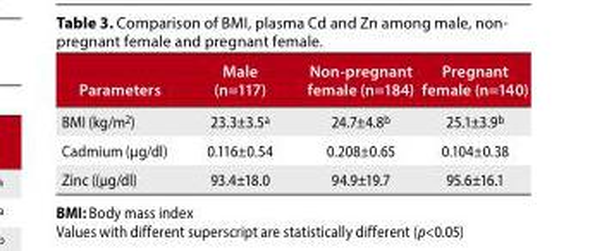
<table><thead><tr><td>Parameters</td><td>Male (n=117)</td><td>Non-pregnant female (n=184)</td><td>Pregnant female (n=140)</td></tr></thead><tbody><tr><td>BMI (kg/m<sup>2</sup>)</td><td>23.3±3.5<sup>a</sup></td><td>24.7±4.8<sup>b</sup></td><td>25.1±3.9<sup>b</sup></td></tr><tr><td>Cadmium (µg/dl)</td><td>0.116±0.54</td><td>0.208±0.65</td><td>0.104±0.38</td></tr><tr><td>Zinc ((µg/dl)</td><td>93.4±18.0</td><td>94.9±19.7</td><td>95.6±16.1</td></tr></tbody></table>